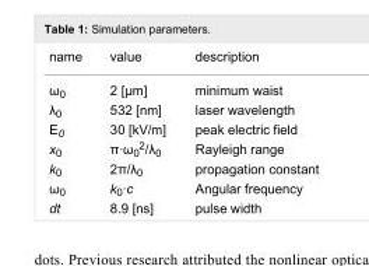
<table><tbody><tr><td>name</td><td>value</td><td>description</td></tr><tr><td>ω<sub>0</sub></td><td>2 [μm]</td><td>minimum waist</td></tr><tr><td>λ<sub>0</sub></td><td>532 [nm]</td><td>laser wavelength</td></tr><tr><td>E<sub>0</sub></td><td>30 [kV/m]</td><td>peak electric field</td></tr><tr><td>x<sub>0</sub></td><td>π·ω<sub>0</sub><sup>2</sup>/λ<sub>0</sub></td><td>Rayleigh range</td></tr><tr><td>k<sub>0</sub></td><td>2π/λ<sub>0</sub></td><td>propagation constant</td></tr><tr><td>ω<sub>0</sub></td><td>k<sub>0</sub>·c</td><td>Angular frequency</td></tr><tr><td>dt</td><td>8.9 [ns]</td><td>pulse width</td></tr></tbody></table>